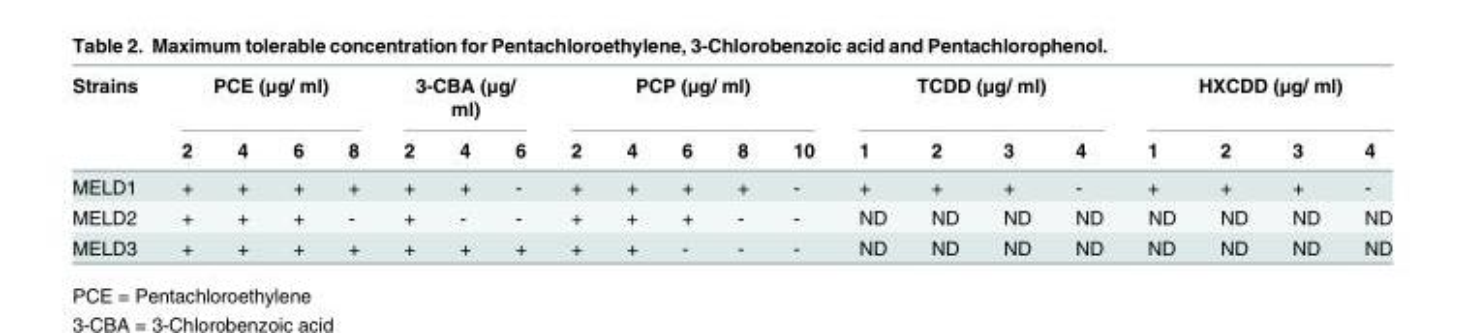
<table><thead><tr><td rowspan="2">Strains</td><td colspan="4">PCE (μg/ ml)</td><td colspan="3">3-CBA (μg/ ml)</td><td colspan="5">PCP (μg/ ml)</td><td colspan="4">TCDD (μg/ ml)</td><td colspan="4">HXCDD (μg/ ml)</td></tr><tr><td>2</td><td>4</td><td>6</td><td>8</td><td>2</td><td>4</td><td>6</td><td>2</td><td>4</td><td>6</td><td>8</td><td>10</td><td>1</td><td>2</td><td>3</td><td>4</td><td>1</td><td>2</td><td>3</td><td>4</td></tr></thead><tbody><tr><td>MELD1</td><td>+</td><td>+</td><td>+</td><td>+</td><td>+</td><td>+</td><td>-</td><td>+</td><td>+</td><td>+</td><td>+</td><td>-</td><td>+</td><td>+</td><td>+</td><td>-</td><td>+</td><td>+</td><td>+</td><td>-</td></tr><tr><td>MELD2</td><td>+</td><td>+</td><td>+</td><td>-</td><td>+</td><td>-</td><td>-</td><td>+</td><td>+</td><td>+</td><td>-</td><td>-</td><td>ND</td><td>ND</td><td>ND</td><td>ND</td><td>ND</td><td>ND</td><td>ND</td><td>ND</td></tr><tr><td>MELD3</td><td>+</td><td>+</td><td>+</td><td>+</td><td>+</td><td>+</td><td>+</td><td>+</td><td>+</td><td>-</td><td>-</td><td>-</td><td>ND</td><td>ND</td><td>ND</td><td>ND</td><td>ND</td><td>ND</td><td>ND</td><td>ND</td></tr></tbody></table>